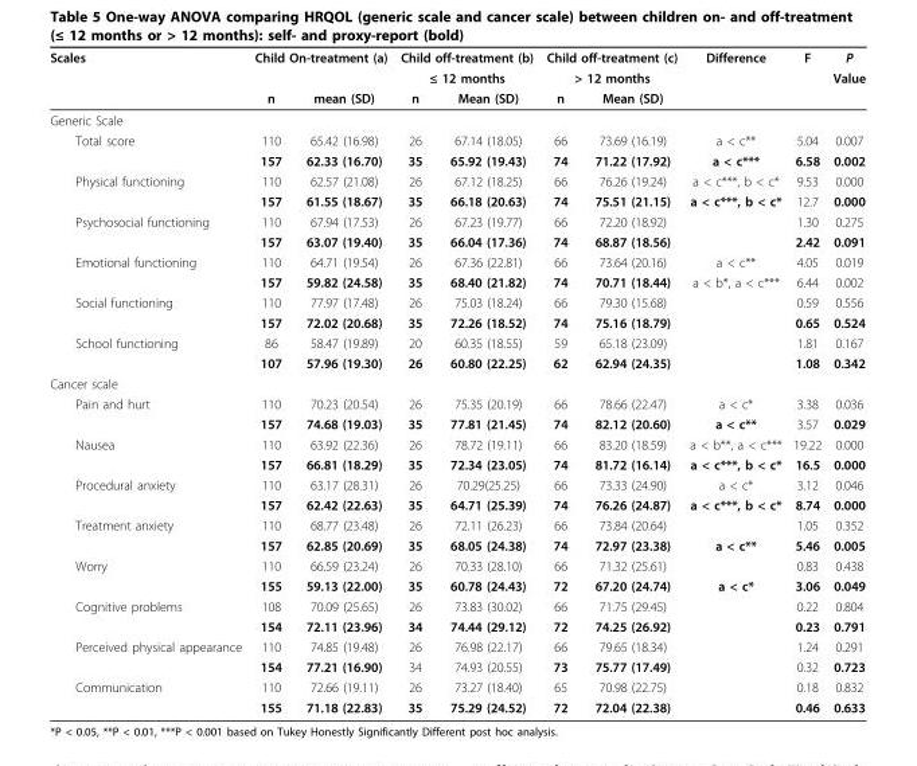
<table><thead><tr><td rowspan="3">Scales</td><td colspan="2">Child On-treatment (a)</td><td rowspan="2" colspan="2">Child off-treatment (b) ≤ 12 months</td><td rowspan="2" colspan="2">Child off-treatment (c) &gt; 12 months</td><td rowspan="3">Difference</td><td rowspan="3">F</td><td rowspan="3">P Value</td></tr><tr><td rowspan="2">n</td><td rowspan="2">mean (SD)</td></tr><tr><td>n</td><td>Mean (SD)</td><td>n</td><td>Mean (SD)</td></tr></thead><tbody><tr><td colspan="10">Generic Scale</td></tr><tr><td rowspan="2">Total score</td><td>110</td><td>65.42 (16.98)</td><td>26</td><td>67.14 (18.05)</td><td>66</td><td>73.69 (16.19)</td><td>a &lt; c**</td><td>5.04</td><td>0.007</td></tr><tr><td>157</td><td>62.33 (16.70)</td><td>35</td><td>65.92 (19.43)</td><td>74</td><td>71.22 (17.92)</td><td>a &lt; c***</td><td>6.58</td><td>0.002</td></tr><tr><td rowspan="2">Physical functioning</td><td>110</td><td>62.57 (21.08)</td><td>26</td><td>67.12 (18.25)</td><td>66</td><td>76.26 (19.24)</td><td>a &lt; c***, b &lt; c*</td><td>9.53</td><td>0.000</td></tr><tr><td>157</td><td>61.55 (18.67)</td><td>35</td><td>66.18 (20.63)</td><td>74</td><td>75.51 (21.15)</td><td>a &lt; c***, b &lt; c*</td><td>12.7</td><td>0.000</td></tr><tr><td rowspan="2">Psychosocial functioning</td><td>110</td><td>67.94 (17.53)</td><td>26</td><td>67.23 (19.77)</td><td>66</td><td>72.20 (18.92)</td><td></td><td>1.30</td><td>0.275</td></tr><tr><td>157</td><td>63.07 (19.40)</td><td>35</td><td>66.04 (17.36)</td><td>74</td><td>68.87 (18.56)</td><td></td><td>2.42</td><td>0.091</td></tr><tr><td rowspan="2">Emotional functioning</td><td>110</td><td>64.71 (19.54)</td><td>26</td><td>67.36 (22.81)</td><td>66</td><td>73.64 (20.16)</td><td>a &lt; c**</td><td>4.05</td><td>0.019</td></tr><tr><td>157</td><td>59.82 (24.58)</td><td>35</td><td>68.40 (21.82)</td><td>74</td><td>70.71 (18.44)</td><td>a &lt; b*, a &lt; c***</td><td>6.44</td><td>0.002</td></tr><tr><td rowspan="2">Social functioning</td><td>110</td><td>77.97 (17.48)</td><td>26</td><td>75.03 (18.24)</td><td>66</td><td>79.30 (15.68)</td><td></td><td>0.59</td><td>0.556</td></tr><tr><td>157</td><td>72.02 (20.68)</td><td>35</td><td>72.26 (18.52)</td><td>74</td><td>75.16 (18.79)</td><td></td><td>0.65</td><td>0.524</td></tr><tr><td rowspan="2">School functioning</td><td>86</td><td>58.47 (19.89)</td><td>20</td><td>60.35 (18.55)</td><td>59</td><td>65.18 (23.09)</td><td></td><td>1.81</td><td>0.167</td></tr><tr><td>107</td><td>57.96 (19.30)</td><td>26</td><td>60.80 (22.25)</td><td>62</td><td>62.94 (24.35)</td><td></td><td>1.08</td><td>0.342</td></tr><tr><td colspan="10">Cancer scale</td></tr><tr><td rowspan="2">Pain and hurt</td><td>110</td><td>70.23 (20.54)</td><td>26</td><td>75.35 (20.19)</td><td>66</td><td>78.66 (22.47)</td><td>a &lt; c*</td><td>3.38</td><td>0.036</td></tr><tr><td>157</td><td>74.68 (19.03)</td><td>35</td><td>77.81 (21.45)</td><td>74</td><td>82.12 (20.60)</td><td>a &lt; c**</td><td>3.57</td><td>0.029</td></tr><tr><td rowspan="2">Nausea</td><td>110</td><td>63.92 (22.36)</td><td>26</td><td>78.72 (19.11)</td><td>66</td><td>83.20 (18.59)</td><td>a &lt; b**, a &lt; c***</td><td>19.22</td><td>0.000</td></tr><tr><td>157</td><td>66.81 (18.29)</td><td>35</td><td>72.34 (23.05)</td><td>74</td><td>81.72 (16.14)</td><td>a &lt; c***, b &lt; c*</td><td>16.5</td><td>0.000</td></tr><tr><td rowspan="2">Procedural anxiety</td><td>110</td><td>63.17 (28.31)</td><td>26</td><td>70.29(25.25)</td><td>66</td><td>73.33 (24.90)</td><td>a &lt; c*</td><td>3.12</td><td>0.046</td></tr><tr><td>157</td><td>62.42 (22.63)</td><td>35</td><td>64.71 (25.39)</td><td>74</td><td>76.26 (24.87)</td><td>a &lt; c***, b &lt; c*</td><td>8.74</td><td>0.000</td></tr><tr><td rowspan="2">Treatment anxiety</td><td>110</td><td>68.77 (23.48)</td><td>26</td><td>72.11 (26.23)</td><td>66</td><td>73.84 (20.64)</td><td></td><td>1.05</td><td>0.352</td></tr><tr><td>157</td><td>62.85 (20.69)</td><td>35</td><td>68.05 (24.38)</td><td>74</td><td>72.97 (23.38)</td><td>a &lt; c**</td><td>5.46</td><td>0.005</td></tr><tr><td rowspan="2">Worry</td><td>110</td><td>66.59 (23.24)</td><td>26</td><td>70.33 (28.10)</td><td>66</td><td>71.32 (25.61)</td><td></td><td>0.83</td><td>0.438</td></tr><tr><td>155</td><td>59.13 (22.00)</td><td>35</td><td>60.78 (24.43)</td><td>72</td><td>67.20 (24.74)</td><td>a &lt; c*</td><td>3.06</td><td>0.049</td></tr><tr><td rowspan="2">Cognitive problems</td><td>108</td><td>70.09 (25.65)</td><td>26</td><td>73.83 (30.02)</td><td>66</td><td>71.75 (29.45)</td><td></td><td>0.22</td><td>0.804</td></tr><tr><td>154</td><td>72.11 (23.96)</td><td>34</td><td>74.44 (29.12)</td><td>72</td><td>74.25 (26.92)</td><td></td><td>0.23</td><td>0.791</td></tr><tr><td rowspan="2">Perceived physical appearance</td><td>110</td><td>74.85 (19.48)</td><td>26</td><td>76.98 (22.17)</td><td>66</td><td>79.65 (18.34)</td><td></td><td>1.24</td><td>0.291</td></tr><tr><td>154</td><td>77.21 (16.90)</td><td>34</td><td>74.93 (20.55)</td><td>73</td><td>75.77 (17.49)</td><td></td><td>0.32</td><td>0.723</td></tr><tr><td rowspan="2">Communication</td><td>110</td><td>72.66 (19.11)</td><td>26</td><td>73.27 (18.40)</td><td>65</td><td>70.98 (22.75)</td><td></td><td>0.18</td><td>0.832</td></tr><tr><td>155</td><td>71.18 (22.83)</td><td>35</td><td>75.29 (24.52)</td><td>72</td><td>72.04 (22.38)</td><td></td><td>0.46</td><td>0.633</td></tr></tbody></table>